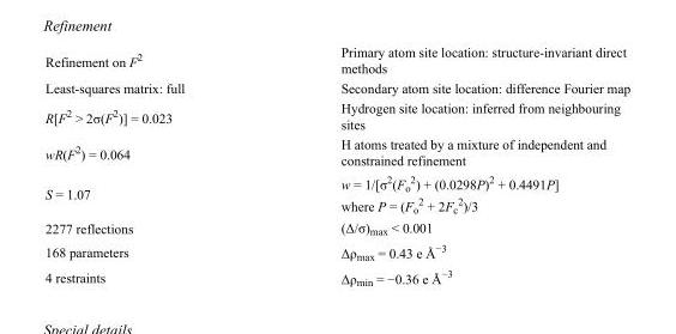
<table><tbody><tr><td>Refinement on F<sup>2</sup></td><td>Primary atom site location: structure-invariant direct methods</td></tr><tr><td>Least-squares matrix: full</td><td>Secondary atom site location: difference Fourier map</td></tr><tr><td>R[F<sup>2</sup> &gt; 2σ(F<sup>2</sup>)] = 0.023</td><td>Hydrogen site location: inferred from neighbouring sites</td></tr><tr><td>wR(F<sup>2</sup>) = 0.064</td><td>H atoms treated by a mixture of independent and constrained refinement</td></tr><tr><td>S = 1.07</td><td>w = 1/[σ<sup>2</sup>(F<sub>o</sub> <sup>2</sup>) + (0.0298P)<sup>2</sup> + 0.4491P] where P = (F<sub>o</sub> <sup>2</sup> + 2F<sub>c</sub> <sup>2</sup>)/3</td></tr><tr><td>2277 reflections</td><td>(Δ/σ)<sub>max</sub> &lt; 0.001</td></tr><tr><td>168 parameters</td><td>Δρ<sub>max</sub> = 0.43 e Å<sup>−3</sup></td></tr><tr><td>4 restraints</td><td>Δρ<sub>min</sub> = −0.36 e Å<sup>−3</sup></td></tr></tbody></table>